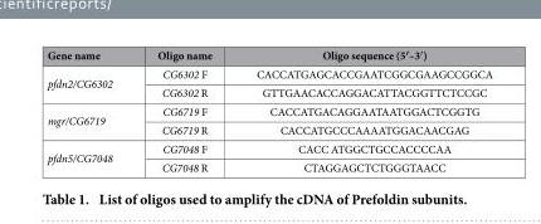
<table><thead><tr><td>Gene name</td><td>Oligo name</td><td>Oligo sequence (5′–3′ )</td></tr></thead><tbody><tr><td rowspan="2">pfdn2/CG6302</td><td>CG6302 F</td><td>CACCATGAGCACCGAATCGGCGAAGCCGGCA</td></tr><tr><td>CG6302 R</td><td>GTTGAACACCAGGACATTACGGTTCTCCGC</td></tr><tr><td rowspan="2">mgr/CG6719</td><td>CG6719 F</td><td>CACCATGACAGGAATAATGGACTCGGTG</td></tr><tr><td>CG6719 R</td><td>CACCATGCCCAAAATGGACAACGAG</td></tr><tr><td rowspan="2">pfdn5/CG7048</td><td>CG7048 F</td><td>CACC ATGGCTGCCACCCCAA</td></tr><tr><td>CG7048 R</td><td>CTAGGAGCTCTGGGTAACC</td></tr></tbody></table>